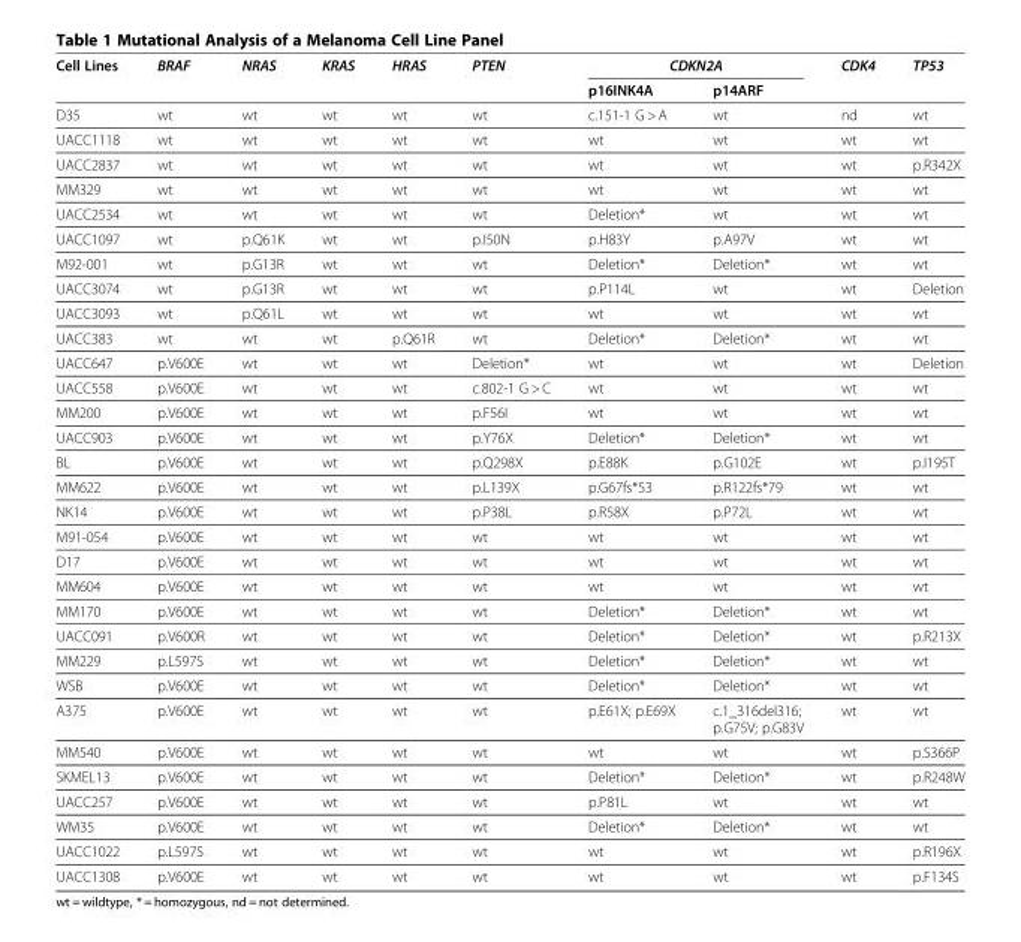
<table><thead><tr><td rowspan="2">Cell Lines</td><td rowspan="2">BRAF</td><td rowspan="2">NRAS</td><td rowspan="2">KRAS</td><td rowspan="2">HRAS</td><td rowspan="2">PTEN</td><td colspan="2">CDKN2A</td><td rowspan="2">CDK4</td><td rowspan="2">TP53</td></tr><tr><td>p16INK4A</td><td>p14ARF</td></tr></thead><tbody><tr><td>D35</td><td>wt</td><td>wt</td><td>wt</td><td>wt</td><td>wt</td><td>c.151-1 G &gt; A</td><td>wt</td><td>nd</td><td>wt</td></tr><tr><td>UACC1118</td><td>wt</td><td>wt</td><td>wt</td><td>wt</td><td>wt</td><td>wt</td><td>wt</td><td>wt</td><td>wt</td></tr><tr><td>UACC2837</td><td>wt</td><td>wt</td><td>wt</td><td>wt</td><td>wt</td><td>wt</td><td>wt</td><td>wt</td><td>p.R342X</td></tr><tr><td>MM329</td><td>wt</td><td>wt</td><td>wt</td><td>wt</td><td>wt</td><td>wt</td><td>wt</td><td>wt</td><td>wt</td></tr><tr><td>UACC2534</td><td>wt</td><td>wt</td><td>wt</td><td>wt</td><td>wt</td><td>Deletion*</td><td>wt</td><td>wt</td><td>wt</td></tr><tr><td>UACC1097</td><td>wt</td><td>p.Q61K</td><td>wt</td><td>wt</td><td>p.I50N</td><td>p.H83Y</td><td>p.A97V</td><td>wt</td><td>wt</td></tr><tr><td>M92-001</td><td>wt</td><td>p.G13R</td><td>wt</td><td>wt</td><td>wt</td><td>Deletion*</td><td>Deletion*</td><td>wt</td><td>wt</td></tr><tr><td>UACC3074</td><td>wt</td><td>p.G13R</td><td>wt</td><td>wt</td><td>wt</td><td>p.P114L</td><td>wt</td><td>wt</td><td>Deletion</td></tr><tr><td>UACC3093</td><td>wt</td><td>p.Q61L</td><td>wt</td><td>wt</td><td>wt</td><td>wt</td><td>wt</td><td>wt</td><td>wt</td></tr><tr><td>UACC383</td><td>wt</td><td>wt</td><td>wt</td><td>p.Q61R</td><td>wt</td><td>Deletion*</td><td>Deletion*</td><td>wt</td><td>wt</td></tr><tr><td>UACC647</td><td>p.V600E</td><td>wt</td><td>wt</td><td>wt</td><td>Deletion*</td><td>wt</td><td>wt</td><td>wt</td><td>Deletion</td></tr><tr><td>UACC558</td><td>p.V600E</td><td>wt</td><td>wt</td><td>wt</td><td>c.802-1 G &gt; C</td><td>wt</td><td>wt</td><td>wt</td><td>wt</td></tr><tr><td>MM200</td><td>p.V600E</td><td>wt</td><td>wt</td><td>wt</td><td>p.F56I</td><td>wt</td><td>wt</td><td>wt</td><td>wt</td></tr><tr><td>UACC903</td><td>p.V600E</td><td>wt</td><td>wt</td><td>wt</td><td>p.Y76X</td><td>Deletion*</td><td>Deletion*</td><td>wt</td><td>wt</td></tr><tr><td>BL</td><td>p.V600E</td><td>wt</td><td>wt</td><td>wt</td><td>p.Q298X</td><td>p.E88K</td><td>p.G102E</td><td>wt</td><td>p.I195T</td></tr><tr><td>MM622</td><td>p.V600E</td><td>wt</td><td>wt</td><td>wt</td><td>p.L139X</td><td>p.G67fs*53</td><td>p.R122fs*79</td><td>wt</td><td>wt</td></tr><tr><td>NK14</td><td>p.V600E</td><td>wt</td><td>wt</td><td>wt</td><td>p.P38L</td><td>p.R58X</td><td>p.P72L</td><td>wt</td><td>wt</td></tr><tr><td>M91-054</td><td>p.V600E</td><td>wt</td><td>wt</td><td>wt</td><td>wt</td><td>wt</td><td>wt</td><td>wt</td><td>wt</td></tr><tr><td>D17</td><td>p.V600E</td><td>wt</td><td>wt</td><td>wt</td><td>wt</td><td>wt</td><td>wt</td><td>wt</td><td>wt</td></tr><tr><td>MM604</td><td>p.V600E</td><td>wt</td><td>wt</td><td>wt</td><td>wt</td><td>wt</td><td>wt</td><td>wt</td><td>wt</td></tr><tr><td>MM170</td><td>p.V600E</td><td>wt</td><td>wt</td><td>wt</td><td>wt</td><td>Deletion*</td><td>Deletion*</td><td>wt</td><td>wt</td></tr><tr><td>UACC091</td><td>p.V600R</td><td>wt</td><td>wt</td><td>wt</td><td>wt</td><td>Deletion*</td><td>Deletion*</td><td>wt</td><td>p.R213X</td></tr><tr><td>MM229</td><td>p.L597S</td><td>wt</td><td>wt</td><td>wt</td><td>wt</td><td>Deletion*</td><td>Deletion*</td><td>wt</td><td>wt</td></tr><tr><td>WSB</td><td>p.V600E</td><td>wt</td><td>wt</td><td>wt</td><td>wt</td><td>Deletion*</td><td>Deletion*</td><td>wt</td><td>wt</td></tr><tr><td>A375</td><td>p.V600E</td><td>wt</td><td>wt</td><td>wt</td><td>wt</td><td>p.E61X; p.E69X</td><td>c.1_316del316; p.G75V; p.G83V</td><td>wt</td><td>wt</td></tr><tr><td>MM540</td><td>p.V600E</td><td>wt</td><td>wt</td><td>wt</td><td>wt</td><td>wt</td><td>wt</td><td>wt</td><td>p.S366P</td></tr><tr><td>SKMEL13</td><td>p.V600E</td><td>wt</td><td>wt</td><td>wt</td><td>wt</td><td>Deletion*</td><td>Deletion*</td><td>wt</td><td>p.R248W</td></tr><tr><td>UACC257</td><td>p.V600E</td><td>wt</td><td>wt</td><td>wt</td><td>wt</td><td>p.P81L</td><td>wt</td><td>wt</td><td>wt</td></tr><tr><td>WM35</td><td>p.V600E</td><td>wt</td><td>wt</td><td>wt</td><td>wt</td><td>Deletion*</td><td>Deletion*</td><td>wt</td><td>wt</td></tr><tr><td>UACC1022</td><td>p.L597S</td><td>wt</td><td>wt</td><td>wt</td><td>wt</td><td>wt</td><td>wt</td><td>wt</td><td>p.R196X</td></tr><tr><td>UACC1308</td><td>p.V600E</td><td>wt</td><td>wt</td><td>wt</td><td>wt</td><td>wt</td><td>wt</td><td>wt</td><td>p.F134S</td></tr></tbody></table>